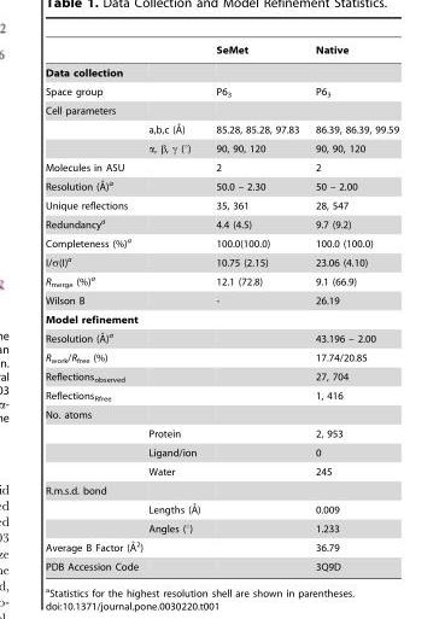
<table><thead><tr><td></td><td></td><td>SeMet</td><td>Native</td></tr></thead><tbody><tr><td colspan="4">Data collection</td></tr><tr><td>Space group</td><td></td><td>P6<sub>3</sub></td><td>P6<sub>3</sub></td></tr><tr><td colspan="4">Cell parameters</td></tr><tr><td></td><td>a,b,c (A˚)</td><td>85.28, 85.28, 97.83</td><td>86.39, 86.39, 99.59</td></tr><tr><td></td><td>α, β, γ (°)</td><td>90, 90, 120</td><td>90, 90, 120</td></tr><tr><td>Molecules in ASU</td><td></td><td>2</td><td>2</td></tr><tr><td>Resolution (A˚)a</td><td></td><td>50.0 – 2.30</td><td>50 – 2.00</td></tr><tr><td>Unique reflections</td><td></td><td>35, 361</td><td>28, 547</td></tr><tr><td>Redundancy<sup>a</sup></td><td></td><td>4.4 (4.5)</td><td>9.7 (9.2)</td></tr><tr><td>Completeness (%)<sup>a</sup></td><td></td><td>100.0(100.0)</td><td>100.0 (100.0)</td></tr><tr><td>I/σ(I)<sup>a</sup></td><td></td><td>10.75 (2.15)</td><td>23.06 (4.10)</td></tr><tr><td>R<sub>merge</sub> (%)<sup>a</sup></td><td></td><td>12.1 (72.8)</td><td>9.1 (66.9)</td></tr><tr><td>Wilson B</td><td></td><td>-</td><td>26.19</td></tr><tr><td colspan="4">Model refinement</td></tr><tr><td>Resolution (A˚)a</td><td></td><td></td><td>43.196 – 2.00</td></tr><tr><td>R<sub>work</sub>/R<sub>free</sub> (%)</td><td></td><td></td><td>17.74/20.85</td></tr><tr><td>Reflections<sub>observed</sub></td><td></td><td></td><td>27, 704</td></tr><tr><td>Reflections<sub>Rfree</sub></td><td></td><td></td><td>1, 416</td></tr><tr><td colspan="4">No. atoms</td></tr><tr><td></td><td>Protein</td><td></td><td>2, 953</td></tr><tr><td></td><td>Ligand/ion</td><td></td><td>0</td></tr><tr><td></td><td>Water</td><td></td><td>245</td></tr><tr><td colspan="4">R.m.s.d. bond</td></tr><tr><td></td><td>Lengths (A˚)</td><td></td><td>0.009</td></tr><tr><td></td><td>Angles (°)</td><td></td><td>1.233</td></tr><tr><td>Average B Factor (A˚2)</td><td></td><td></td><td>36.79</td></tr><tr><td>PDB Accession Code</td><td></td><td></td><td>3Q9D</td></tr></tbody></table>